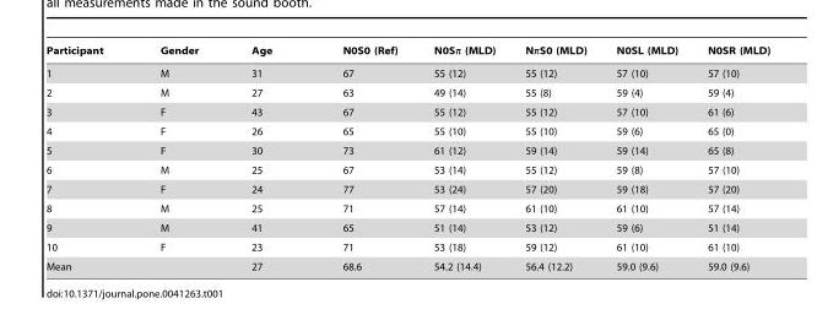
<table><thead><tr><td>Participant</td><td>Gender</td><td>Age</td><td>N0S0 (Ref)</td><td>N0Sπ (MLD)</td><td>NπS0 (MLD)</td><td>N0SL (MLD)</td><td>N0SR (MLD)</td></tr></thead><tbody><tr><td>1</td><td>M</td><td>31</td><td>67</td><td>55 (12)</td><td>55 (12)</td><td>57 (10)</td><td>57 (10)</td></tr><tr><td>2</td><td>M</td><td>27</td><td>63</td><td>49 (14)</td><td>55 (8)</td><td>59 (4)</td><td>59 (4)</td></tr><tr><td>3</td><td>F</td><td>43</td><td>67</td><td>55 (12)</td><td>55 (12)</td><td>57 (10)</td><td>61 (6)</td></tr><tr><td>4</td><td>F</td><td>26</td><td>65</td><td>55 (10)</td><td>55 (10)</td><td>59 (6)</td><td>65 (0)</td></tr><tr><td>5</td><td>F</td><td>30</td><td>73</td><td>61 (12)</td><td>59 (14)</td><td>59 (14)</td><td>65 (8)</td></tr><tr><td>6</td><td>M</td><td>25</td><td>67</td><td>53 (14)</td><td>55 (12)</td><td>59 (8)</td><td>57 (10)</td></tr><tr><td>7</td><td>F</td><td>24</td><td>77</td><td>53 (24)</td><td>57 (20)</td><td>59 (18)</td><td>57 (20)</td></tr><tr><td>8</td><td>M</td><td>25</td><td>71</td><td>57 (14)</td><td>61 (10)</td><td>61 (10)</td><td>57 (14)</td></tr><tr><td>9</td><td>M</td><td>41</td><td>65</td><td>51 (14)</td><td>53 (12)</td><td>59 (6)</td><td>51 (14)</td></tr><tr><td>10</td><td>F</td><td>23</td><td>71</td><td>53 (18)</td><td>59 (12)</td><td>61 (10)</td><td>61 (10)</td></tr><tr><td>Mean</td><td></td><td>27</td><td>68.6</td><td>54.2 (14.4)</td><td>56.4 (12.2)</td><td>59.0 (9.6)</td><td>59.0 (9.6)</td></tr></tbody></table>